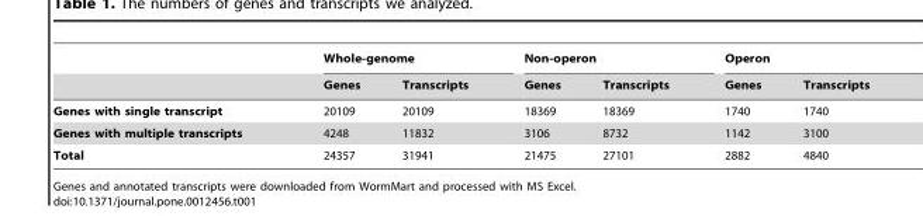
<table><thead><tr><td rowspan="2"></td><td colspan="2">Whole-genome</td><td colspan="2">Non-operon</td><td colspan="2">Operon</td></tr><tr><td>Genes</td><td>Transcripts</td><td>Genes</td><td>Transcripts</td><td>Genes</td><td>Transcripts</td></tr></thead><tbody><tr><td>Genes with single transcript</td><td>20109</td><td>20109</td><td>18369</td><td>18369</td><td>1740</td><td>1740</td></tr><tr><td>Genes with multiple transcripts</td><td>4248</td><td>11832</td><td>3106</td><td>8732</td><td>1142</td><td>3100</td></tr><tr><td>Total</td><td>24357</td><td>31941</td><td>21475</td><td>27101</td><td>2882</td><td>4840</td></tr></tbody></table>